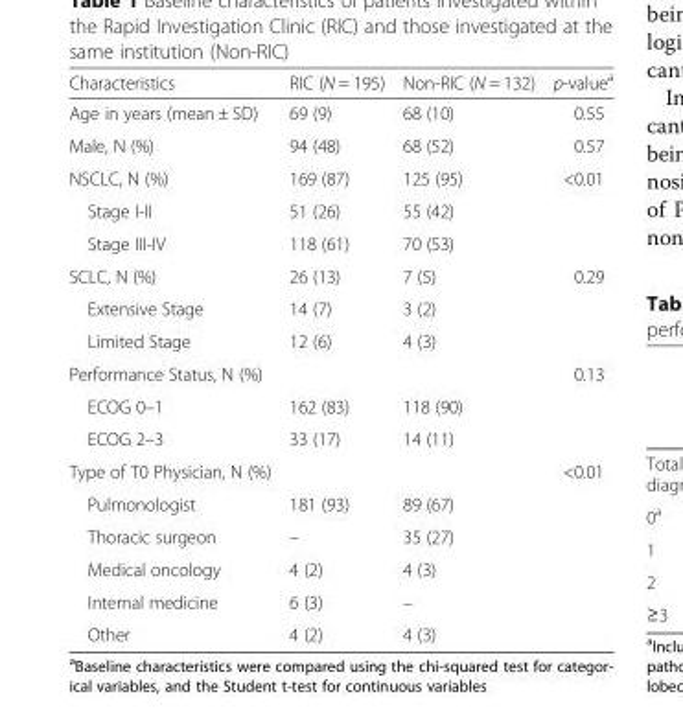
<table><thead><tr><td>Characteristics</td><td>RIC (N = 195)</td><td>Non-RIC (N = 132)</td><td>p-value<sup>a</sup></td></tr></thead><tbody><tr><td>Age in years (mean ± SD)</td><td>69 (9)</td><td>68 (10)</td><td>0.55</td></tr><tr><td>Male, N (%)</td><td>94 (48)</td><td>68 (52)</td><td>0.57</td></tr><tr><td>NSCLC, N (%)</td><td>169 (87)</td><td>125 (95)</td><td>&lt;0.01</td></tr><tr><td>Stage I-II</td><td>51 (26)</td><td>55 (42)</td><td></td></tr><tr><td>Stage III-IV</td><td>118 (61)</td><td>70 (53)</td><td></td></tr><tr><td>SCLC, N (%)</td><td>26 (13)</td><td>7 (5)</td><td>0.29</td></tr><tr><td>Extensive Stage</td><td>14 (7)</td><td>3 (2)</td><td></td></tr><tr><td>Limited Stage</td><td>12 (6)</td><td>4 (3)</td><td></td></tr><tr><td>Performance Status, N (%)</td><td></td><td></td><td>0.13</td></tr><tr><td>ECOG 0–1</td><td>162 (83)</td><td>118 (90)</td><td></td></tr><tr><td>ECOG 2–3</td><td>33 (17)</td><td>14 (11)</td><td></td></tr><tr><td>Type of T0 Physician, N (%)</td><td></td><td></td><td>&lt;0.01</td></tr><tr><td>Pulmonologist</td><td>181 (93)</td><td>89 (67)</td><td></td></tr><tr><td>Thoracic surgeon</td><td>–</td><td>35 (27)</td><td></td></tr><tr><td>Medical oncology</td><td>4 (2)</td><td>4 (3)</td><td></td></tr><tr><td>Internal medicine</td><td>6 (3)</td><td>–</td><td></td></tr><tr><td>Other</td><td>4 (2)</td><td>4 (3)</td><td></td></tr></tbody></table>